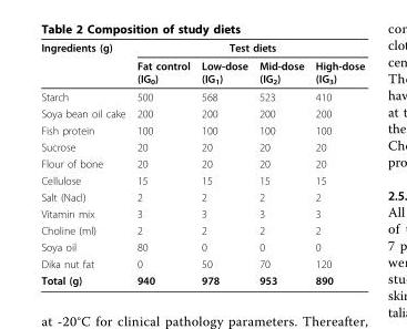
<table><thead><tr><td rowspan="2">Ingredients (g)</td><td colspan="4">Test diets</td></tr><tr><td>Fat control (IG<sub>0</sub>)</td><td>Low-dose (IG<sub>1</sub>)</td><td>Mid-dose (IG<sub>2</sub>)</td><td>High-dose (IG<sub>3</sub>)</td></tr></thead><tbody><tr><td>Starch</td><td>500</td><td>568</td><td>523</td><td>410</td></tr><tr><td>Soya bean oil cake</td><td>200</td><td>200</td><td>200</td><td>200</td></tr><tr><td>Fish protein</td><td>100</td><td>100</td><td>100</td><td>100</td></tr><tr><td>Sucrose</td><td>20</td><td>20</td><td>20</td><td>20</td></tr><tr><td>Flour of bone</td><td>20</td><td>20</td><td>20</td><td>20</td></tr><tr><td>Cellulose</td><td>15</td><td>15</td><td>15</td><td>15</td></tr><tr><td>Salt (Nacl)</td><td>2</td><td>2</td><td>2</td><td>2</td></tr><tr><td>Vitamin mix</td><td>3</td><td>3</td><td>3</td><td>3</td></tr><tr><td>Choline (ml)</td><td>2</td><td>2</td><td>2</td><td>2</td></tr><tr><td>Soya oil</td><td>80</td><td>0</td><td>0</td><td>0</td></tr><tr><td>Dika nut fat</td><td>0</td><td>50</td><td>70</td><td>120</td></tr><tr><td>Total (g)</td><td>940</td><td>978</td><td>953</td><td>890</td></tr></tbody></table>